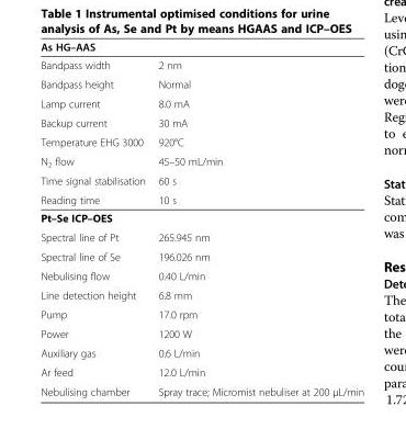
<table><thead><tr><td>As HG–AAS</td><td></td></tr></thead><tbody><tr><td>Bandpass width</td><td>2 nm</td></tr><tr><td>Bandpass height</td><td>Normal</td></tr><tr><td>Lamp current</td><td>8.0 mA</td></tr><tr><td>Backup current</td><td>30 mA</td></tr><tr><td>Temperature EHG 3000</td><td>920°C</td></tr><tr><td>N<sub>2</sub> flow</td><td>45–50 mL/min</td></tr><tr><td>Time signal stabilisation</td><td>60 s</td></tr><tr><td>Reading time</td><td>10 s</td></tr><tr><td colspan="2">Pt–Se ICP–OES</td></tr><tr><td>Spectral line of Pt</td><td>265.945 nm</td></tr><tr><td>Spectral line of Se</td><td>196.026 nm</td></tr><tr><td>Nebulising flow</td><td>0.40 L/min</td></tr><tr><td>Line detection height</td><td>6.8 mm</td></tr><tr><td>Pump</td><td>17.0 rpm</td></tr><tr><td>Power</td><td>1200 W</td></tr><tr><td>Auxiliary gas</td><td>0.6 L/min</td></tr><tr><td>Ar feed</td><td>12.0 L/min</td></tr><tr><td>Nebulising chamber</td><td>Spray trace; Micromist nebuliser at 200 μL/min</td></tr></tbody></table>